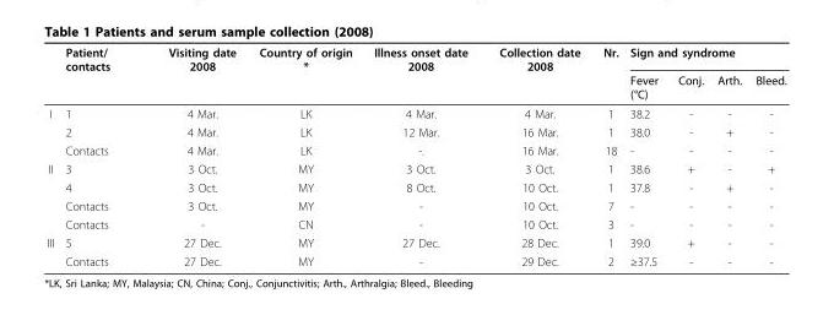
<table><thead><tr><td rowspan="2"></td><td rowspan="2">Patient/ contacts</td><td rowspan="2">Visiting date 2008</td><td rowspan="2">Country of origin *</td><td rowspan="2">Illness onset date 2008</td><td rowspan="2">Collection date 2008</td><td rowspan="2">Nr.</td><td colspan="4">Sign and syndrome</td></tr><tr><td>Fever (°C)</td><td>Conj.</td><td>Arth.</td><td>Bleed.</td></tr></thead><tbody><tr><td rowspan="3">I</td><td>1</td><td>4 Mar.</td><td>LK</td><td>4 Mar.</td><td>4 Mar.</td><td>1</td><td>38.2</td><td>-</td><td>-</td><td>-</td></tr><tr><td>2</td><td>4 Mar.</td><td>LK</td><td>12 Mar.</td><td>16 Mar.</td><td>1</td><td>38.0</td><td>-</td><td>+</td><td>-</td></tr><tr><td>Contacts</td><td>4 Mar.</td><td>LK</td><td>-.</td><td>16 Mar.</td><td>18</td><td>-</td><td>-</td><td>-</td><td>-</td></tr><tr><td rowspan="4">II</td><td>3</td><td>3 Oct.</td><td>MY</td><td>3 Oct.</td><td>3 Oct.</td><td>1</td><td>38.6</td><td>+</td><td>-</td><td>+</td></tr><tr><td>4</td><td>3 Oct.</td><td>MY</td><td>8 Oct.</td><td>10 Oct.</td><td>1</td><td>37.8</td><td>-</td><td>+</td><td>-</td></tr><tr><td>Contacts</td><td>3 Oct.</td><td>MY</td><td>-</td><td>10 Oct.</td><td>7</td><td>-</td><td>-</td><td>-</td><td>-</td></tr><tr><td>Contacts</td><td>-</td><td>CN</td><td>-</td><td>10 Oct.</td><td>3</td><td>-</td><td>-</td><td>-</td><td>-</td></tr><tr><td rowspan="2">III</td><td>5</td><td>27 Dec.</td><td>MY</td><td>27 Dec.</td><td>28 Dec.</td><td>1</td><td>39.0</td><td>+</td><td>-</td><td>-</td></tr><tr><td>Contacts</td><td>27 Dec.</td><td>MY</td><td>-</td><td>29 Dec.</td><td>2</td><td>≥37.5</td><td>-</td><td>-</td><td>-</td></tr></tbody></table>